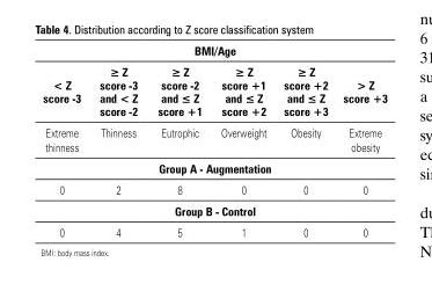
<table><thead><tr><td colspan="6">BMI/Age</td></tr><tr><td>&lt; Z score -3</td><td>≥ Z score -3 and &lt; Z score -2</td><td>≥ Z score -2 and ≤ Z score +1</td><td>≥ Z score +1 and ≤ Z score +2</td><td>≥ Z score +2 and ≤ Z score +3</td><td>&gt; Z score +3</td></tr></thead><tbody><tr><td>Extreme thinness</td><td>Thinness</td><td>Eutrophic</td><td>Overweight</td><td>Obesity</td><td>Extreme obesity</td></tr><tr><td colspan="6">Group A - Augmentation</td></tr><tr><td>0</td><td>2</td><td>8</td><td>0</td><td>0</td><td>0</td></tr><tr><td colspan="6">Group B - Control</td></tr><tr><td>0</td><td>4</td><td>5</td><td>1</td><td>0</td><td>0</td></tr></tbody></table>